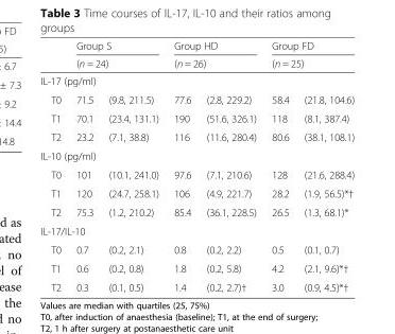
<table><thead><tr><td rowspan="2"></td><td rowspan="2" colspan="2">Group S (n = 24)</td><td rowspan="2" colspan="2">Group HD (n = 26)</td><td rowspan="2" colspan="2">Group FD (n = 25)</td></tr><tr></tr><tr><td colspan="7">IL-17 (pg/ml)</td></tr><tr><td>T0</td><td>71.5</td><td>(9.8, 211.5)</td><td>77.6</td><td>(2.8, 229.2)</td><td>58.4</td><td>(21.8, 104.6)</td></tr></thead><tbody><tr><td>T1</td><td>70.1</td><td>(23.4, 131.1)</td><td>190</td><td>(51.6, 326.1)</td><td>118</td><td>(8.1, 387.4)</td></tr><tr><td>T2</td><td>23.2</td><td>(7.1, 38.8)</td><td>116</td><td>(11.6, 280.4)</td><td>80.6</td><td>(38.1, 108.1)</td></tr><tr><td colspan="7">IL-10 (pg/ml)</td></tr><tr><td>T0</td><td>101</td><td>(10.1, 241.0)</td><td>97.6</td><td>(7.1, 210.6)</td><td>128</td><td>(21.6, 288.4)</td></tr><tr><td>T1</td><td>120</td><td>(24.7, 258.1)</td><td>106</td><td>(4.9, 221.7)</td><td>28.2</td><td>(1.9, 56.5)*†</td></tr><tr><td>T2</td><td>75.3</td><td>(1.2, 210.2)</td><td>85.4</td><td>(36.1, 228.5)</td><td>26.5</td><td>(1.3, 68.1)*</td></tr><tr><td colspan="7">IL-17/IL-10</td></tr><tr><td>T0</td><td>0.7</td><td>(0.2, 2.1)</td><td>0.8</td><td>(0.2, 2.2)</td><td>0.5</td><td>(0.1, 0.7)</td></tr><tr><td>T1</td><td>0.6</td><td>(0.2, 0.8)</td><td>1.8</td><td>(0.2, 5.8)</td><td>4.2</td><td>(2.1, 9.6)*†</td></tr><tr><td>T2</td><td>0.3</td><td>(0.1, 0.5)</td><td>1.4</td><td>(0.2, 2.7)†</td><td>3.0</td><td>(0.9, 4.5)*†</td></tr></tbody></table>